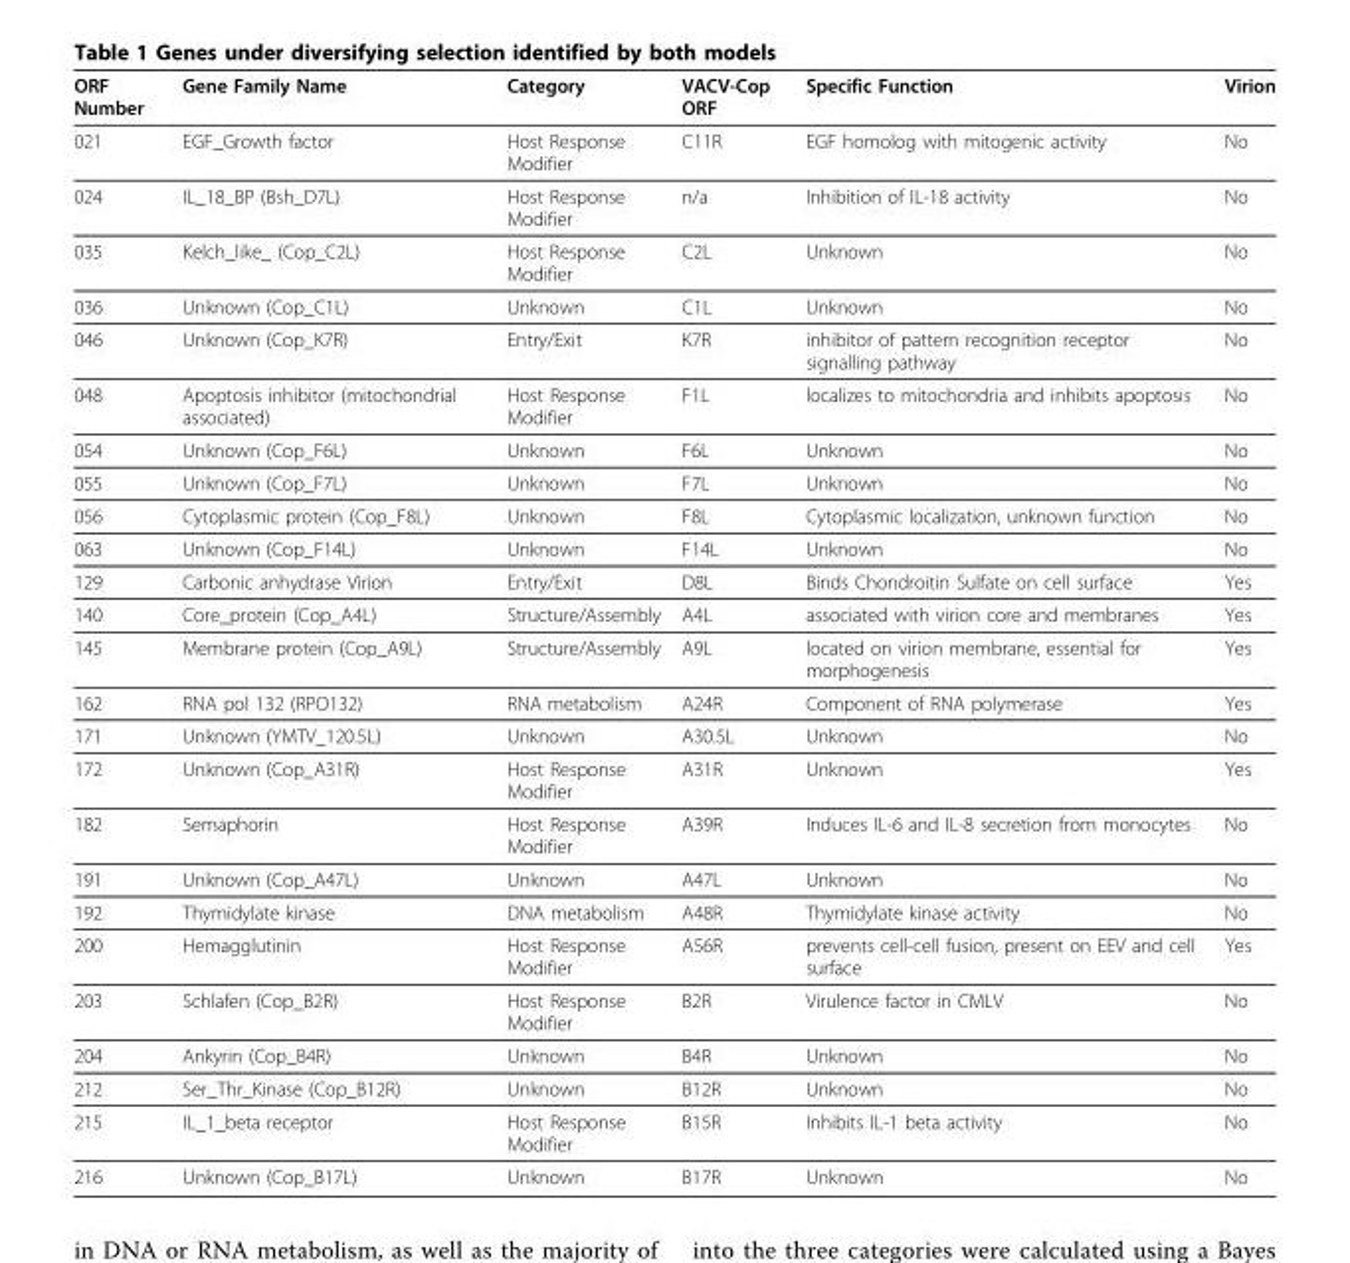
<table><thead><tr><td>ORF Number</td><td>Gene Family Name</td><td>Category</td><td>VACV-Cop ORF</td><td>Specific Function</td><td>Virion</td></tr></thead><tbody><tr><td>021</td><td>EGF_Growth factor</td><td>Host Response Modifier</td><td>C11R</td><td>EGF homolog with mitogenic activity</td><td>No</td></tr><tr><td>024</td><td>IL_18_BP (Bsh_D7L)</td><td>Host Response Modifier</td><td>n/a</td><td>Inhibition of IL-18 activity</td><td>No</td></tr><tr><td>035</td><td>Kelch_like_ (Cop_C2L)</td><td>Host Response Modifier</td><td>C2L</td><td>Unknown</td><td>No</td></tr><tr><td>036</td><td>Unknown (Cop_C1L)</td><td>Unknown</td><td>C1L</td><td>Unknown</td><td>No</td></tr><tr><td>046</td><td>Unknown (Cop_K7R)</td><td>Entry/Exit</td><td>K7R</td><td>inhibitor of pattern recognition receptor signalling pathway</td><td>No</td></tr><tr><td>048</td><td>Apoptosis inhibitor (mitochondrial associated)</td><td>Host Response Modifier</td><td>F1L</td><td>localizes to mitochondria and inhibits apoptosis</td><td>No</td></tr><tr><td>054</td><td>Unknown (Cop_F6L)</td><td>Unknown</td><td>F6L</td><td>Unknown</td><td>No</td></tr><tr><td>055</td><td>Unknown (Cop_F7L)</td><td>Unknown</td><td>F7L</td><td>Unknown</td><td>No</td></tr><tr><td>056</td><td>Cytoplasmic protein (Cop_F8L)</td><td>Unknown</td><td>F8L</td><td>Cytoplasmic localization, unknown function</td><td>No</td></tr><tr><td>063</td><td>Unknown (Cop_F14L)</td><td>Unknown</td><td>F14L</td><td>Unknown</td><td>No</td></tr><tr><td>129</td><td>Carbonic anhydrase Virion</td><td>Entry/Exit</td><td>D8L</td><td>Binds Chondroitin Sulfate on cell surface</td><td>Yes</td></tr><tr><td>140</td><td>Core_protein (Cop_A4L)</td><td>Structure/Assembly</td><td>A4L</td><td>associated with virion core and membranes</td><td>Yes</td></tr><tr><td>145</td><td>Membrane protein (Cop_A9L)</td><td>Structure/Assembly</td><td>A9L</td><td>located on virion membrane, essential for morphogenesis</td><td>Yes</td></tr><tr><td>162</td><td>RNA pol 132 (RPO132)</td><td>RNA metabolism</td><td>A24R</td><td>Component of RNA polymerase</td><td>Yes</td></tr><tr><td>171</td><td>Unknown (YMTV_120.5L)</td><td>Unknown</td><td>A30.5L</td><td>Unknown</td><td>No</td></tr><tr><td>172</td><td>Unknown (Cop_A31R)</td><td>Host Response Modifier</td><td>A31R</td><td>Unknown</td><td>Yes</td></tr><tr><td>182</td><td>Semaphorin</td><td>Host Response Modifier</td><td>A39R</td><td>Induces IL-6 and IL-8 secretion from monocytes</td><td>No</td></tr><tr><td>191</td><td>Unknown (Cop_A47L)</td><td>Unknown</td><td>A47L</td><td>Unknown</td><td>No</td></tr><tr><td>192</td><td>Thymidylate kinase</td><td>DNA metabolism</td><td>A48R</td><td>Thymidylate kinase activity</td><td>No</td></tr><tr><td>200</td><td>Hemagglutinin</td><td>Host Response Modifier</td><td>A56R</td><td>prevents cell-cell fusion, present on EEV and cell surface</td><td>Yes</td></tr><tr><td>203</td><td>Schlafen (Cop_B2R)</td><td>Host Response Modifier</td><td>B2R</td><td>Virulence factor in CMLV</td><td>No</td></tr><tr><td>204</td><td>Ankyrin (Cop_B4R)</td><td>Unknown</td><td>B4R</td><td>Unknown</td><td>No</td></tr><tr><td>212</td><td>Ser_Thr_Kinase (Cop_B12R)</td><td>Unknown</td><td>B12R</td><td>Unknown</td><td>No</td></tr><tr><td>215</td><td>IL_1_beta receptor</td><td>Host Response Modifier</td><td>B15R</td><td>Inhibits IL-1 beta activity</td><td>No</td></tr><tr><td>216</td><td>Unknown (Cop_B17L)</td><td>Unknown</td><td>B17R</td><td>Unknown</td><td>No</td></tr></tbody></table>